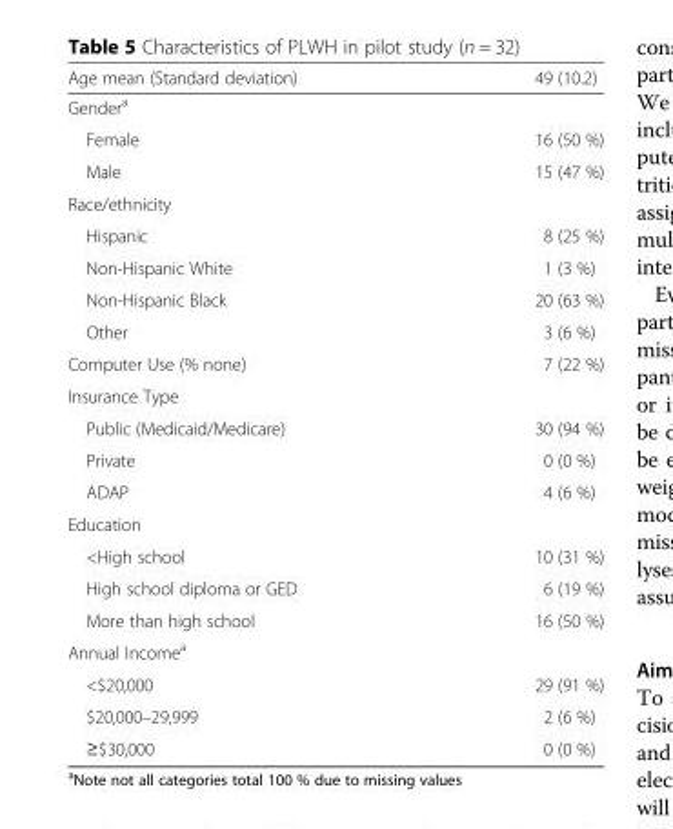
<table><thead><tr><td>Age mean (Standard deviation)</td><td>49 (10.2)</td></tr></thead><tbody><tr><td colspan="2">Gender<sup>a</sup></td></tr><tr><td>Female</td><td>16 (50 %)</td></tr><tr><td>Male</td><td>15 (47 %)</td></tr><tr><td colspan="2">Race/ethnicity</td></tr><tr><td>Hispanic</td><td>8 (25 %)</td></tr><tr><td>Non-Hispanic White</td><td>1 (3 %)</td></tr><tr><td>Non-Hispanic Black</td><td>20 (63 %)</td></tr><tr><td>Other</td><td>3 (6 %)</td></tr><tr><td>Computer Use (% none)</td><td>7 (22 %)</td></tr><tr><td colspan="2">Insurance Type</td></tr><tr><td>Public (Medicaid/Medicare)</td><td>30 (94 %)</td></tr><tr><td>Private</td><td>0 (0 %)</td></tr><tr><td>ADAP</td><td>4 (6 %)</td></tr><tr><td colspan="2">Education</td></tr><tr><td>&lt;High school</td><td>10 (31 %)</td></tr><tr><td>High school diploma or GED</td><td>6 (19 %)</td></tr><tr><td>More than high school</td><td>16 (50 %)</td></tr><tr><td colspan="2">Annual Income<sup>a</sup></td></tr><tr><td>&lt;$20,000</td><td>29 (91 %)</td></tr><tr><td>$20,000–29,999</td><td>2 (6 %)</td></tr><tr><td>≥$30,000</td><td>0 (0 %)</td></tr></tbody></table>